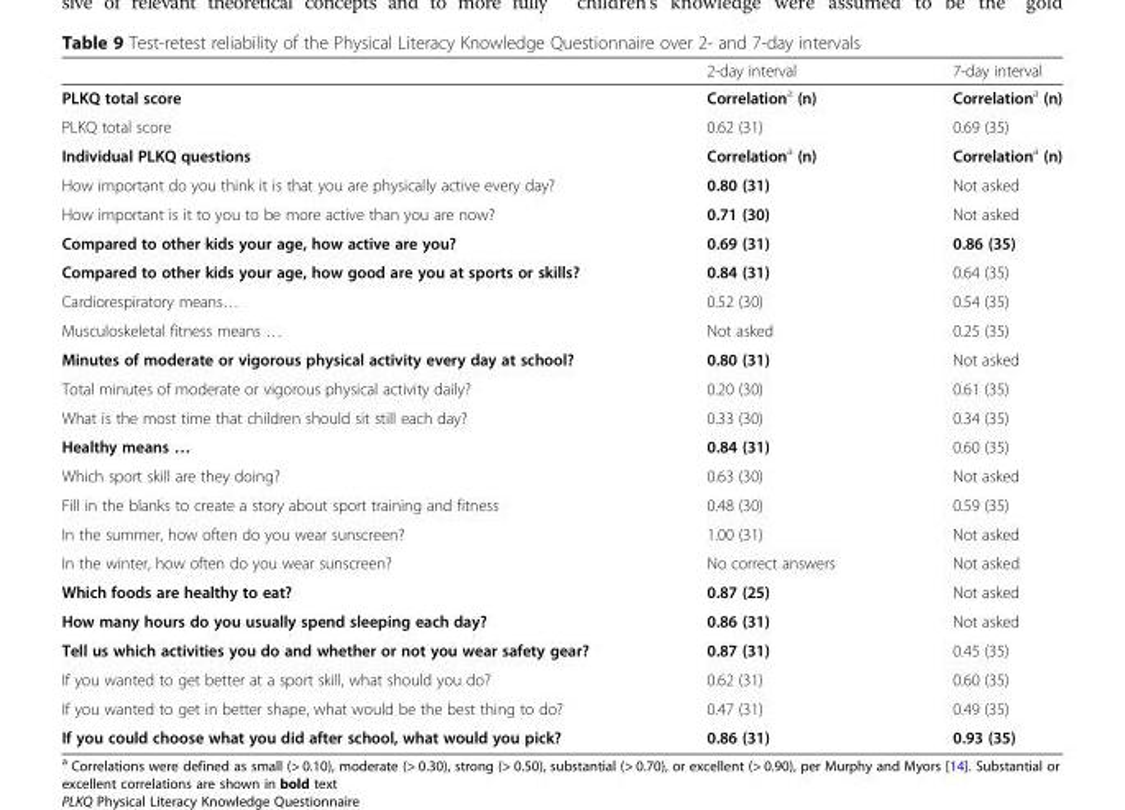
<table><thead><tr><td></td><td>2-day interval</td><td>7-day interval</td></tr></thead><tbody><tr><td>PLKQ total score</td><td>Correlation<sup>a</sup> (n)</td><td>Correlation<sup>a</sup> (n)</td></tr><tr><td>PLKQ total score</td><td>0.62 (31)</td><td>0.69 (35)</td></tr><tr><td>Individual PLKQ questions</td><td>Correlation<sup>a</sup> (n)</td><td>Correlation<sup>a</sup> (n)</td></tr><tr><td>How important do you think it is that you are physically active every day?</td><td>0.80 (31)</td><td>Not asked</td></tr><tr><td>How important is it to you to be more active than you are now?</td><td>0.71 (30)</td><td>Not asked</td></tr><tr><td>Compared to other kids your age, how active are you?</td><td>0.69 (31)</td><td>0.86 (35)</td></tr><tr><td>Compared to other kids your age, how good are you at sports or skills?</td><td>0.84 (31)</td><td>0.64 (35)</td></tr><tr><td>Cardiorespiratory means…</td><td>0.52 (30)</td><td>0.54 (35)</td></tr><tr><td>Musculoskeletal fitness means …</td><td>Not asked</td><td>0.25 (35)</td></tr><tr><td>Minutes of moderate or vigorous physical activity every day at school?</td><td>0.80 (31)</td><td>Not asked</td></tr><tr><td>Total minutes of moderate or vigorous physical activity daily?</td><td>0.20 (30)</td><td>0.61 (35)</td></tr><tr><td>What is the most time that children should sit still each day?</td><td>0.33 (30)</td><td>0.34 (35)</td></tr><tr><td>Healthy means …</td><td>0.84 (31)</td><td>0.60 (35)</td></tr><tr><td>Which sport skill are they doing?</td><td>0.63 (30)</td><td>Not asked</td></tr><tr><td>Fill in the blanks to create a story about sport training and fitness</td><td>0.48 (30)</td><td>0.59 (35)</td></tr><tr><td>In the summer, how often do you wear sunscreen?</td><td>1.00 (31)</td><td>Not asked</td></tr><tr><td>In the winter, how often do you wear sunscreen?</td><td>No correct answers</td><td>Not asked</td></tr><tr><td>Which foods are healthy to eat?</td><td>0.87 (25)</td><td>Not asked</td></tr><tr><td>How many hours do you usually spend sleeping each day?</td><td>0.86 (31)</td><td>Not asked</td></tr><tr><td>Tell us which activities you do and whether or not you wear safety gear?</td><td>0.87 (31)</td><td>0.45 (35)</td></tr><tr><td>If you wanted to get better at a sport skill, what should you do?</td><td>0.62 (31)</td><td>0.60 (35)</td></tr><tr><td>If you wanted to get in better shape, what would be the best thing to do?</td><td>0.47 (31)</td><td>0.49 (35)</td></tr><tr><td>If you could choose what you did after school, what would you pick?</td><td>0.86 (31)</td><td>0.93 (35)</td></tr></tbody></table>